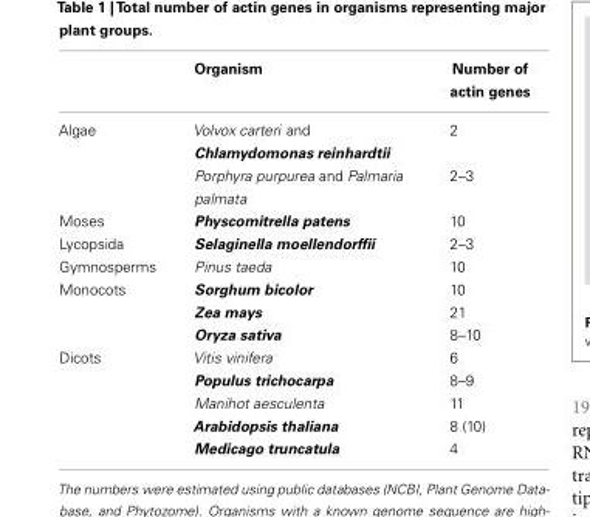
<table><thead><tr><td></td><td>Organism</td><td>Number of actin genes</td></tr></thead><tbody><tr><td rowspan="2">Algae</td><td>Volvox carteri and Chlamydomonas reinhardtii</td><td>2</td></tr><tr><td>Porphyra purpurea and Palmaria palmata</td><td>2–3</td></tr><tr><td>Moses</td><td>Physcomitrella patens</td><td>10</td></tr><tr><td>Lycopsida</td><td>Selaginella moellendorffii</td><td>2–3</td></tr><tr><td>Gymnosperms</td><td>Pinus taeda</td><td>10</td></tr><tr><td rowspan="3">Monocots</td><td>Sorghum bicolor</td><td>10</td></tr><tr><td>Zea mays</td><td>21</td></tr><tr><td>Oryza sativa</td><td>8–10</td></tr><tr><td rowspan="5">Dicots</td><td>Vitis vinifera</td><td>6</td></tr><tr><td>Populus trichocarpa</td><td>8–9</td></tr><tr><td>Manihot aesculenta</td><td>11</td></tr><tr><td>Arabidopsis thaliana</td><td>8 (10)</td></tr><tr><td>Medicago truncatula</td><td>4</td></tr></tbody></table>